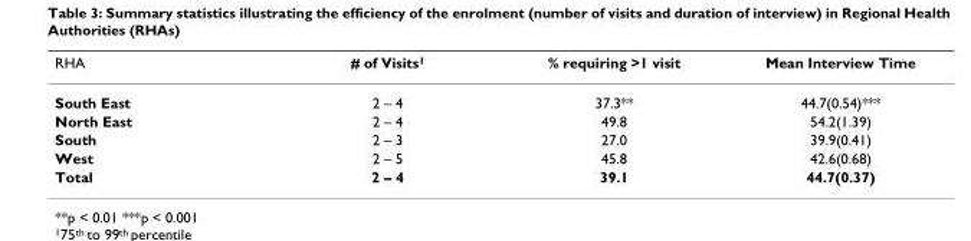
<table><thead><tr><td>RHA</td><td># of Visits<sup>1</sup></td><td>% requiring &gt;1 visit</td><td>Mean Interview Time</td></tr></thead><tbody><tr><td>South East</td><td>2 – 4</td><td>37.3**</td><td>44.7(0.54)***</td></tr><tr><td>North East</td><td>2 – 4</td><td>49.8</td><td>54.2(1.39)</td></tr><tr><td>South</td><td>2 – 3</td><td>27.0</td><td>39.9(0.41)</td></tr><tr><td>West</td><td>2 – 5</td><td>45.8</td><td>42.6(0.68)</td></tr><tr><td>Total</td><td>2 – 4</td><td>39.1</td><td>44.7(0.37)</td></tr></tbody></table>